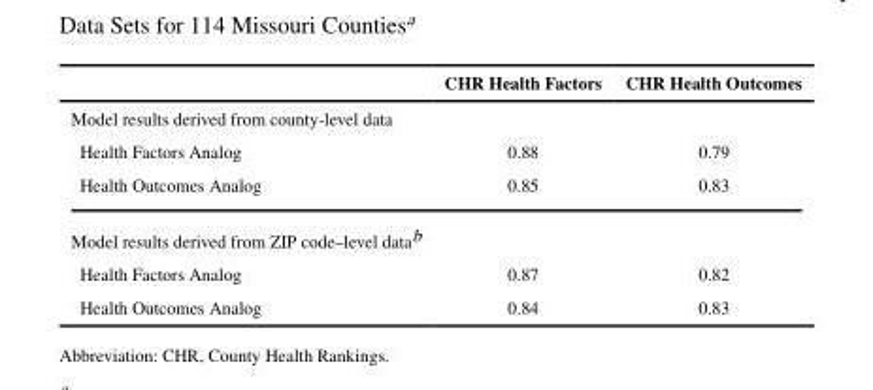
<table><thead><tr><td></td><td>CHR Health Factors</td><td>CHR Health Outcomes</td></tr></thead><tbody><tr><td colspan="3">Model results derived from county-level data</td></tr><tr><td>Health Factors Analog</td><td>0.88</td><td>0.79</td></tr><tr><td>Health Outcomes Analog</td><td>0.85</td><td>0.83</td></tr><tr><td colspan="3">Model results derived from ZIP code–level data<sup>b</sup></td></tr><tr><td>Health Factors Analog</td><td>0.87</td><td>0.82</td></tr><tr><td>Health Outcomes Analog</td><td>0.84</td><td>0.83</td></tr></tbody></table>